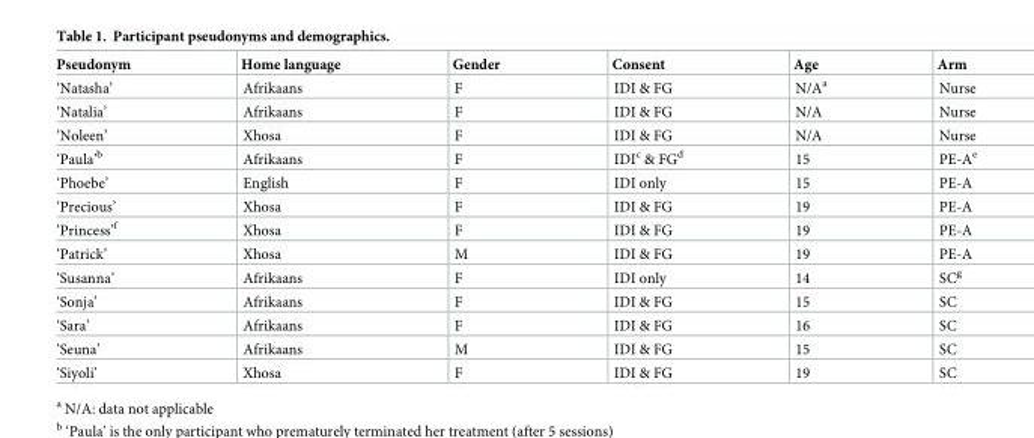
<table><thead><tr><td>Pseudonym</td><td>Home language</td><td>Gender</td><td>Consent</td><td>Age</td><td>Arm</td></tr></thead><tbody><tr><td>‘Natasha’</td><td>Afrikaans</td><td>F</td><td>IDI &amp; FG</td><td>N/A<sup>a</sup></td><td>Nurse</td></tr><tr><td>‘Natalia’</td><td>Afrikaans</td><td>F</td><td>IDI &amp; FG</td><td>N/A</td><td>Nurse</td></tr><tr><td>‘Noleen’</td><td>Xhosa</td><td>F</td><td>IDI &amp; FG</td><td>N/A</td><td>Nurse</td></tr><tr><td>‘Paula’<sup>b</sup></td><td>Afrikaans</td><td>F</td><td>IDI<sup>c</sup> &amp; FG<sup>d</sup></td><td>15</td><td>PE-A<sup>e</sup></td></tr><tr><td>‘Phoebe’</td><td>English</td><td>F</td><td>IDI only</td><td>15</td><td>PE-A</td></tr><tr><td>‘Precious’</td><td>Xhosa</td><td>F</td><td>IDI &amp; FG</td><td>19</td><td>PE-A</td></tr><tr><td>‘Princess’<sup>f</sup></td><td>Xhosa</td><td>F</td><td>IDI &amp; FG</td><td>19</td><td>PE-A</td></tr><tr><td>‘Patrick’</td><td>Xhosa</td><td>M</td><td>IDI &amp; FG</td><td>19</td><td>PE-A</td></tr><tr><td>‘Susanna’</td><td>Afrikaans</td><td>F</td><td>IDI only</td><td>14</td><td>SC<sup>g</sup></td></tr><tr><td>‘Sonja’</td><td>Afrikaans</td><td>F</td><td>IDI &amp; FG</td><td>15</td><td>SC</td></tr><tr><td>‘Sara’</td><td>Afrikaans</td><td>F</td><td>IDI &amp; FG</td><td>16</td><td>SC</td></tr><tr><td>‘Seuna’</td><td>Afrikaans</td><td>M</td><td>IDI &amp; FG</td><td>15</td><td>SC</td></tr><tr><td>‘Siyoli’</td><td>Xhosa</td><td>F</td><td>IDI &amp; FG</td><td>19</td><td>SC</td></tr></tbody></table>